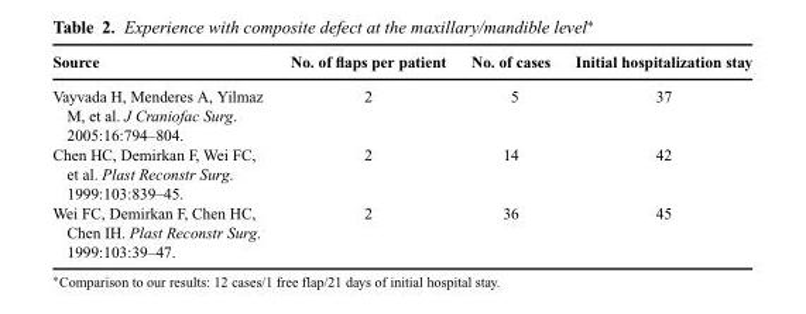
<table><thead><tr><td>Source</td><td>No. of flaps per patient</td><td>No. of cases</td><td>Initial hospitalization stay</td></tr></thead><tbody><tr><td>Vayvada H, Menderes A, Yilmaz M, et al. J Craniofac Surg. 2005:16:794–804.</td><td>2</td><td>5</td><td>37</td></tr><tr><td>Chen HC, Demirkan F, Wei FC, et al. Plast Reconstr Surg. 1999:103:839–45.</td><td>2</td><td>14</td><td>42</td></tr><tr><td>Wei FC, Demirkan F, Chen HC, Chen IH. Plast Reconstr Surg. 1999:103:39–47.</td><td>2</td><td>36</td><td>45</td></tr></tbody></table>